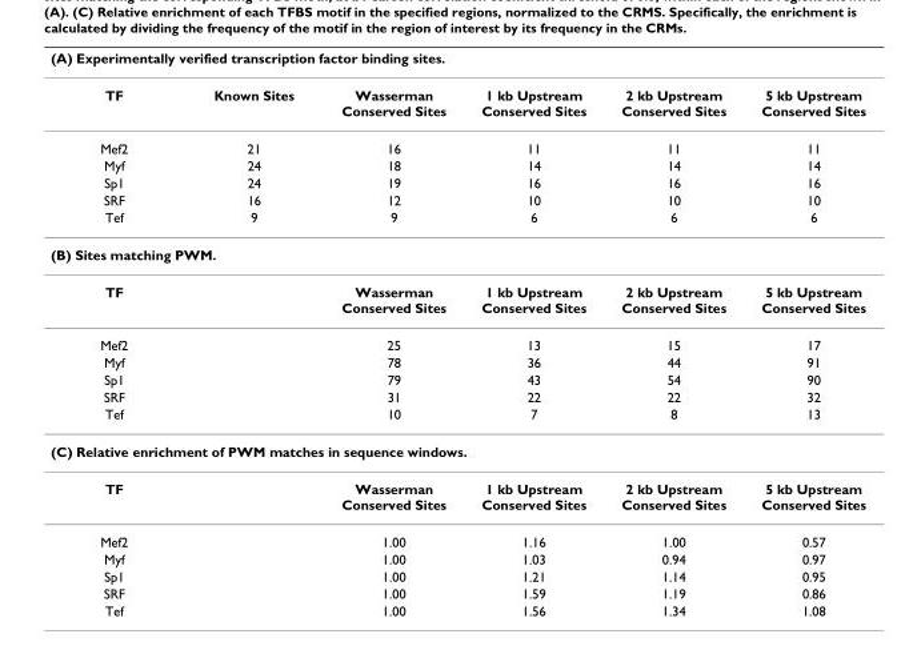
<table><thead><tr><td colspan="6">(A) Experimentally verified transcription factor binding sites.</td></tr><tr><td>TF</td><td>Known Sites</td><td>Wasserman Conserved Sites</td><td>1 kb Upstream Conserved Sites</td><td>2 kb Upstream Conserved Sites</td><td>5 kb Upstream Conserved Sites</td></tr></thead><tbody><tr><td>Mef2</td><td>21</td><td>16</td><td>11</td><td>11</td><td>11</td></tr><tr><td>Myf</td><td>24</td><td>18</td><td>14</td><td>14</td><td>14</td></tr><tr><td>Sp1</td><td>24</td><td>19</td><td>16</td><td>16</td><td>16</td></tr><tr><td>SRF</td><td>16</td><td>12</td><td>10</td><td>10</td><td>10</td></tr><tr><td>Tef</td><td>9</td><td>9</td><td>6</td><td>6</td><td>6</td></tr><tr><td colspan="6">(B) Sites matching PWM.</td></tr><tr><td>TF</td><td></td><td>Wasserman Conserved Sites</td><td>1 kb Upstream Conserved Sites</td><td>2 kb Upstream Conserved Sites</td><td>5 kb Upstream Conserved Sites</td></tr><tr><td>Mef2</td><td></td><td>25</td><td>13</td><td>15</td><td>17</td></tr><tr><td>Myf</td><td></td><td>78</td><td>36</td><td>44</td><td>91</td></tr><tr><td>Sp1</td><td></td><td>79</td><td>43</td><td>54</td><td>90</td></tr><tr><td>SRF</td><td></td><td>31</td><td>22</td><td>22</td><td>32</td></tr><tr><td>Tef</td><td></td><td>10</td><td>7</td><td>8</td><td>13</td></tr><tr><td colspan="6">(C) Relative enrichment of PWM matches in sequence windows.</td></tr><tr><td>TF</td><td></td><td>Wasserman Conserved Sites</td><td>1 kb Upstream Conserved Sites</td><td>2 kb Upstream Conserved Sites</td><td>5 kb Upstream Conserved Sites</td></tr><tr><td>Mef2</td><td></td><td>1.00</td><td>1.16</td><td>1.00</td><td>0.57</td></tr><tr><td>Myf</td><td></td><td>1.00</td><td>1.03</td><td>0.94</td><td>0.97</td></tr><tr><td>Sp1</td><td></td><td>1.00</td><td>1.21</td><td>1.14</td><td>0.95</td></tr><tr><td>SRF</td><td></td><td>1.00</td><td>1.59</td><td>1.19</td><td>0.86</td></tr><tr><td>Tef</td><td></td><td>1.00</td><td>1.56</td><td>1.34</td><td>1.08</td></tr></tbody></table>